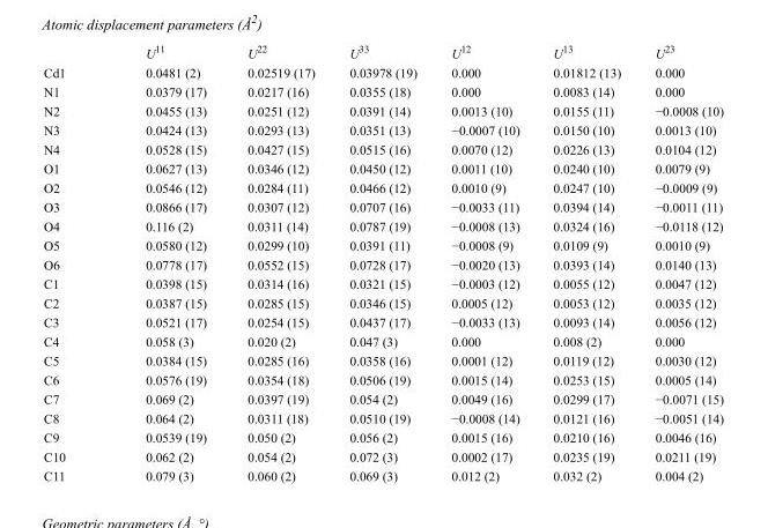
<table><thead><tr><td></td><td>U<sup>11</sup></td><td>U<sup>22</sup></td><td>U<sup>33</sup></td><td>U<sup>12</sup></td><td>U<sup>13</sup></td><td>U<sup>23</sup></td></tr></thead><tbody><tr><td>Cd1</td><td>0.0481 (2)</td><td>0.02519 (17)</td><td>0.03978 (19)</td><td>0.000</td><td>0.01812 (13)</td><td>0.000</td></tr><tr><td>N1</td><td>0.0379 (17)</td><td>0.0217 (16)</td><td>0.0355 (18)</td><td>0.000</td><td>0.0083 (14)</td><td>0.000</td></tr><tr><td>N2</td><td>0.0455 (13)</td><td>0.0251 (12)</td><td>0.0391 (14)</td><td>0.0013 (10)</td><td>0.0155 (11)</td><td>−0.0008 (10)</td></tr><tr><td>N3</td><td>0.0424 (13)</td><td>0.0293 (13)</td><td>0.0351 (13)</td><td>−0.0007 (10)</td><td>0.0150 (10)</td><td>0.0013 (10)</td></tr><tr><td>N4</td><td>0.0528 (15)</td><td>0.0427 (15)</td><td>0.0515 (16)</td><td>0.0070 (12)</td><td>0.0226 (13)</td><td>0.0104 (12)</td></tr><tr><td>O1</td><td>0.0627 (13)</td><td>0.0346 (12)</td><td>0.0450 (12)</td><td>0.0011 (10)</td><td>0.0240 (10)</td><td>0.0079 (9)</td></tr><tr><td>O2</td><td>0.0546 (12)</td><td>0.0284 (11)</td><td>0.0466 (12)</td><td>0.0010 (9)</td><td>0.0247 (10)</td><td>−0.0009 (9)</td></tr><tr><td>O3</td><td>0.0866 (17)</td><td>0.0307 (12)</td><td>0.0707 (16)</td><td>−0.0033 (11)</td><td>0.0394 (14)</td><td>−0.0011 (11)</td></tr><tr><td>O4</td><td>0.116 (2)</td><td>0.0311 (14)</td><td>0.0787 (19)</td><td>−0.0008 (13)</td><td>0.0324 (16)</td><td>−0.0118 (12)</td></tr><tr><td>O5</td><td>0.0580 (12)</td><td>0.0299 (10)</td><td>0.0391 (11)</td><td>−0.0008 (9)</td><td>0.0109 (9)</td><td>0.0010 (9)</td></tr><tr><td>O6</td><td>0.0778 (17)</td><td>0.0552 (15)</td><td>0.0728 (17)</td><td>−0.0020 (13)</td><td>0.0393 (14)</td><td>0.0140 (13)</td></tr><tr><td>C1</td><td>0.0398 (15)</td><td>0.0314 (16)</td><td>0.0321 (15)</td><td>−0.0003 (12)</td><td>0.0055 (12)</td><td>0.0047 (12)</td></tr><tr><td>C2</td><td>0.0387 (15)</td><td>0.0285 (15)</td><td>0.0346 (15)</td><td>0.0005 (12)</td><td>0.0053 (12)</td><td>0.0035 (12)</td></tr><tr><td>C3</td><td>0.0521 (17)</td><td>0.0254 (15)</td><td>0.0437 (17)</td><td>−0.0033 (13)</td><td>0.0093 (14)</td><td>0.0056 (12)</td></tr><tr><td>C4</td><td>0.058 (3)</td><td>0.020 (2)</td><td>0.047 (3)</td><td>0.000</td><td>0.008 (2)</td><td>0.000</td></tr><tr><td>C5</td><td>0.0384 (15)</td><td>0.0285 (16)</td><td>0.0358 (16)</td><td>0.0001 (12)</td><td>0.0119 (12)</td><td>0.0030 (12)</td></tr><tr><td>C6</td><td>0.0576 (19)</td><td>0.0354 (18)</td><td>0.0506 (19)</td><td>0.0015 (14)</td><td>0.0253 (15)</td><td>0.0005 (14)</td></tr><tr><td>C7</td><td>0.069 (2)</td><td>0.0397 (19)</td><td>0.054 (2)</td><td>0.0049 (16)</td><td>0.0299 (17)</td><td>−0.0071 (15)</td></tr><tr><td>C8</td><td>0.064 (2)</td><td>0.0311 (18)</td><td>0.0510 (19)</td><td>−0.0008 (14)</td><td>0.0121 (16)</td><td>−0.0051 (14)</td></tr><tr><td>C9</td><td>0.0539 (19)</td><td>0.050 (2)</td><td>0.056 (2)</td><td>0.0015 (16)</td><td>0.0210 (16)</td><td>0.0046 (16)</td></tr><tr><td>C10</td><td>0.062 (2)</td><td>0.054 (2)</td><td>0.072 (3)</td><td>0.0002 (17)</td><td>0.0235 (19)</td><td>0.0211 (19)</td></tr><tr><td>C11</td><td>0.079 (3)</td><td>0.060 (2)</td><td>0.069 (3)</td><td>0.012 (2)</td><td>0.032 (2)</td><td>0.004 (2)</td></tr></tbody></table>